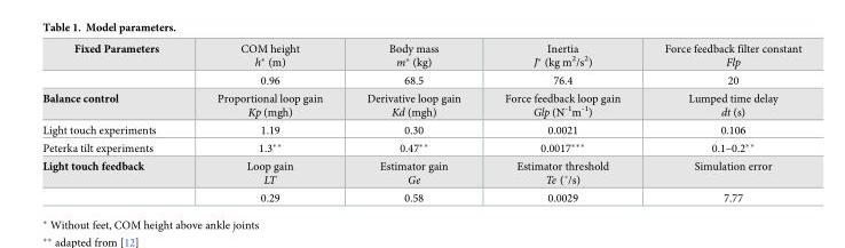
<table><tbody><tr><td rowspan="2">Fixed Parameters</td><td>COM height h* (m)</td><td>Body mass m* (kg)</td><td>Inertia J* (kg m<sup>2</sup>/s<sup>2</sup>)</td><td>Force feedback filter constant Flp</td></tr><tr><td>0.96</td><td>68.5</td><td>76.4</td><td>20</td></tr><tr><td>Balance control</td><td>Proportional loop gain Kp (mgh)</td><td>Derivative loop gain Kd (mgh)</td><td>Force feedback loop gain Glp (N<sup>-1</sup>m<sup>-1</sup>)</td><td>Lumped time delay dt (s)</td></tr><tr><td>Light touch experiments</td><td>1.19</td><td>0.30</td><td>0.0021</td><td>0.106</td></tr><tr><td>Peterka tilt experiments</td><td>1.3**</td><td>0.47**</td><td>0.0017***</td><td>0.1–0.2**</td></tr><tr><td rowspan="2">Light touch feedback</td><td>Loop gain LT</td><td>Estimator gain Ge</td><td>Estimator threshold Te (˚/s)</td><td>Simulation error</td></tr><tr><td>0.29</td><td>0.58</td><td>0.0029</td><td>7.77</td></tr></tbody></table>